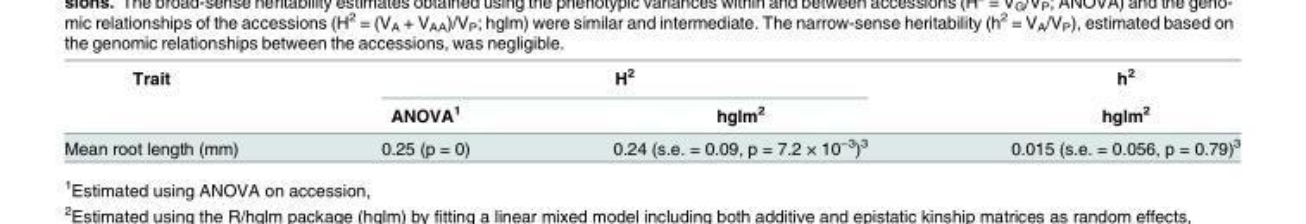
<table><thead><tr><td rowspan="2">Trait</td><td colspan="2">H2</td><td rowspan="2">h2 hglm2</td></tr><tr><td>ANOVA<sup>1</sup></td><td>hglm<sup>2</sup></td></tr></thead><tbody><tr><td>Mean root length (mm)</td><td>0.25 (p = 0)</td><td>0.24 (s.e. = 0.09, p = 7.2 × 10<sup>−3</sup>)<sup>3</sup></td><td>0.015 (s.e. = 0.056, p = 0.79)<sup>3</sup></td></tr></tbody></table>